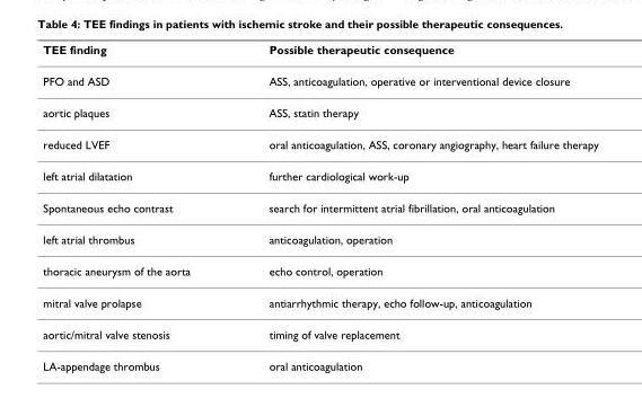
<table><thead><tr><td>TEE finding</td><td>Possible therapeutic consequence</td></tr></thead><tbody><tr><td>PFO and ASD</td><td>ASS, anticoagulation, operative or interventional device closure</td></tr><tr><td>aortic plaques</td><td>ASS, statin therapy</td></tr><tr><td>reduced LVEF</td><td>oral anticoagulation, ASS, coronary angiography, heart failure therapy</td></tr><tr><td>left atrial dilatation</td><td>further cardiological work-up</td></tr><tr><td>Spontaneous echo contrast</td><td>search for intermittent atrial fibrillation, oral anticoagulation</td></tr><tr><td>left atrial thrombus</td><td>anticoagulation, operation</td></tr><tr><td>thoracic aneurysm of the aorta</td><td>echo control, operation</td></tr><tr><td>mitral valve prolapse</td><td>antiarrhythmic therapy, echo follow-up, anticoagulation</td></tr><tr><td>aortic/mitral valve stenosis</td><td>timing of valve replacement</td></tr><tr><td>LA-appendage thrombus</td><td>oral anticoagulation</td></tr></tbody></table>